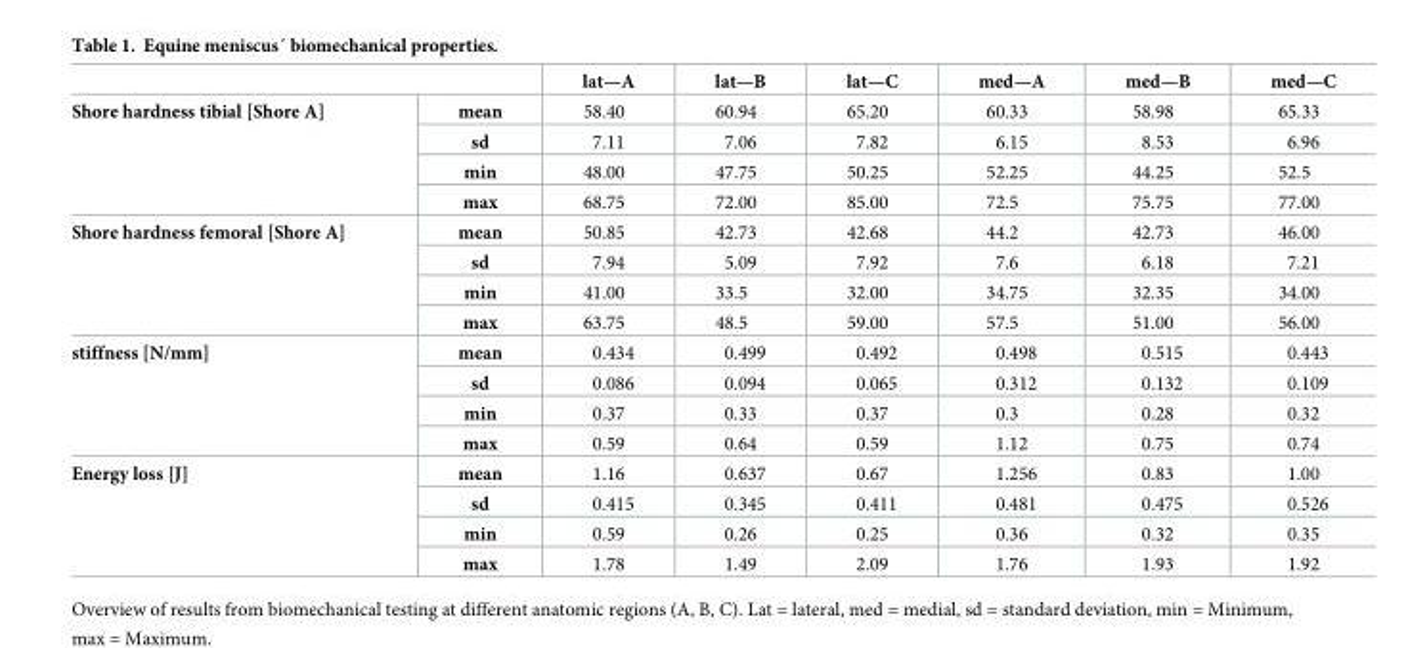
<table><thead><tr><td></td><td></td><td>lat—A</td><td>lat—B</td><td>lat—C</td><td>med—A</td><td>med—B</td><td>med—C</td></tr></thead><tbody><tr><td rowspan="4">Shore hardness tibial [Shore A]</td><td>mean</td><td>58.40</td><td>60.94</td><td>65.20</td><td>60.33</td><td>58.98</td><td>65.33</td></tr><tr><td>sd</td><td>7.11</td><td>7.06</td><td>7.82</td><td>6.15</td><td>8.53</td><td>6.96</td></tr><tr><td>min</td><td>48.00</td><td>47.75</td><td>50.25</td><td>52.25</td><td>44.25</td><td>52.5</td></tr><tr><td>max</td><td>68.75</td><td>72.00</td><td>85.00</td><td>72.5</td><td>75.75</td><td>77.00</td></tr><tr><td rowspan="4">Shore hardness femoral [Shore A]</td><td>mean</td><td>50.85</td><td>42.73</td><td>42.68</td><td>44.2</td><td>42.73</td><td>46.00</td></tr><tr><td>sd</td><td>7.94</td><td>5.09</td><td>7.92</td><td>7.6</td><td>6.18</td><td>7.21</td></tr><tr><td>min</td><td>41.00</td><td>33.5</td><td>32.00</td><td>34.75</td><td>32.35</td><td>34.00</td></tr><tr><td>max</td><td>63.75</td><td>48.5</td><td>59.00</td><td>57.5</td><td>51.00</td><td>56.00</td></tr><tr><td rowspan="4">stiffness [N/mm]</td><td>mean</td><td>0.434</td><td>0.499</td><td>0.492</td><td>0.498</td><td>0.515</td><td>0.443</td></tr><tr><td>sd</td><td>0.086</td><td>0.094</td><td>0.065</td><td>0.312</td><td>0.132</td><td>0.109</td></tr><tr><td>min</td><td>0.37</td><td>0.33</td><td>0.37</td><td>0.3</td><td>0.28</td><td>0.32</td></tr><tr><td>max</td><td>0.59</td><td>0.64</td><td>0.59</td><td>1.12</td><td>0.75</td><td>0.74</td></tr><tr><td rowspan="4">Energy loss [J]</td><td>mean</td><td>1.16</td><td>0.637</td><td>0.67</td><td>1.256</td><td>0.83</td><td>1.00</td></tr><tr><td>sd</td><td>0.415</td><td>0.345</td><td>0.411</td><td>0.481</td><td>0.475</td><td>0.526</td></tr><tr><td>min</td><td>0.59</td><td>0.26</td><td>0.25</td><td>0.36</td><td>0.32</td><td>0.35</td></tr><tr><td>max</td><td>1.78</td><td>1.49</td><td>2.09</td><td>1.76</td><td>1.93</td><td>1.92</td></tr></tbody></table>